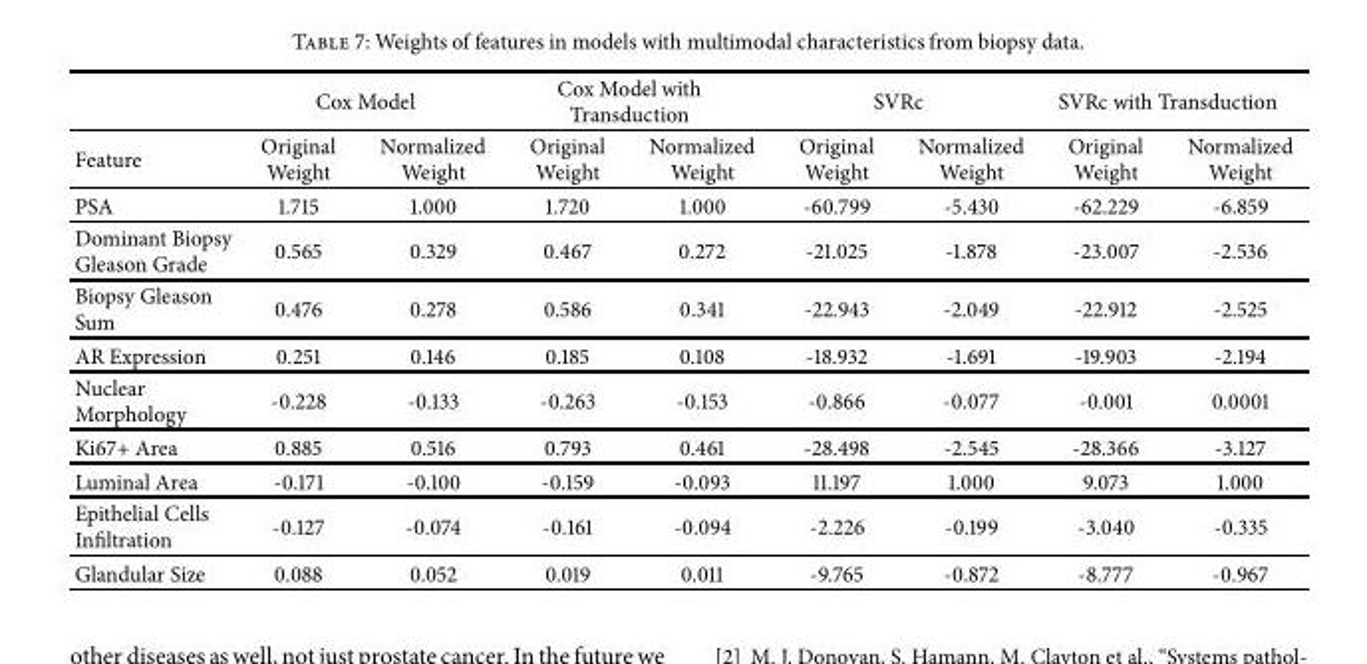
<table><thead><tr><td rowspan="2">Feature</td><td colspan="2">Cox Model</td><td colspan="2">Cox Model with Transduction</td><td colspan="2">SVRc</td><td colspan="2">SVRc with Transduction</td></tr><tr><td>Original Weight</td><td>Normalized Weight</td><td>Original Weight</td><td>Normalized Weight</td><td>Original Weight</td><td>Normalized Weight</td><td>Original Weight</td><td>Normalized Weight</td></tr></thead><tbody><tr><td>PSA</td><td>1.715</td><td>1.000</td><td>1.720</td><td>1.000</td><td>-60.799</td><td>-5.430</td><td>-62.229</td><td>-6.859</td></tr><tr><td>Dominant Biopsy Gleason Grade</td><td>0.565</td><td>0.329</td><td>0.467</td><td>0.272</td><td>-21.025</td><td>-1.878</td><td>-23.007</td><td>-2.536</td></tr><tr><td>Biopsy Gleason Sum</td><td>0.476</td><td>0.278</td><td>0.586</td><td>0.341</td><td>-22.943</td><td>-2.049</td><td>-22.912</td><td>-2.525</td></tr><tr><td>AR Expression</td><td>0.251</td><td>0.146</td><td>0.185</td><td>0.108</td><td>-18.932</td><td>-1.691</td><td>-19.903</td><td>-2.194</td></tr><tr><td>Nuclear Morphology</td><td>-0.228</td><td>-0.133</td><td>-0.263</td><td>-0.153</td><td>-0.866</td><td>-0.077</td><td>-0.001</td><td>0.0001</td></tr><tr><td>Ki67+ Area</td><td>0.885</td><td>0.516</td><td>0.793</td><td>0.461</td><td>-28.498</td><td>-2.545</td><td>-28.366</td><td>-3.127</td></tr><tr><td>Luminal Area</td><td>-0.171</td><td>-0.100</td><td>-0.159</td><td>-0.093</td><td>11.197</td><td>1.000</td><td>9.073</td><td>1.000</td></tr><tr><td>Epithelial Cells Infiltration</td><td>-0.127</td><td>-0.074</td><td>-0.161</td><td>-0.094</td><td>-2.226</td><td>-0.199</td><td>-3.040</td><td>-0.335</td></tr><tr><td>Glandular Size</td><td>0.088</td><td>0.052</td><td>0.019</td><td>0.011</td><td>-9.765</td><td>-0.872</td><td>-8.777</td><td>-0.967</td></tr></tbody></table>